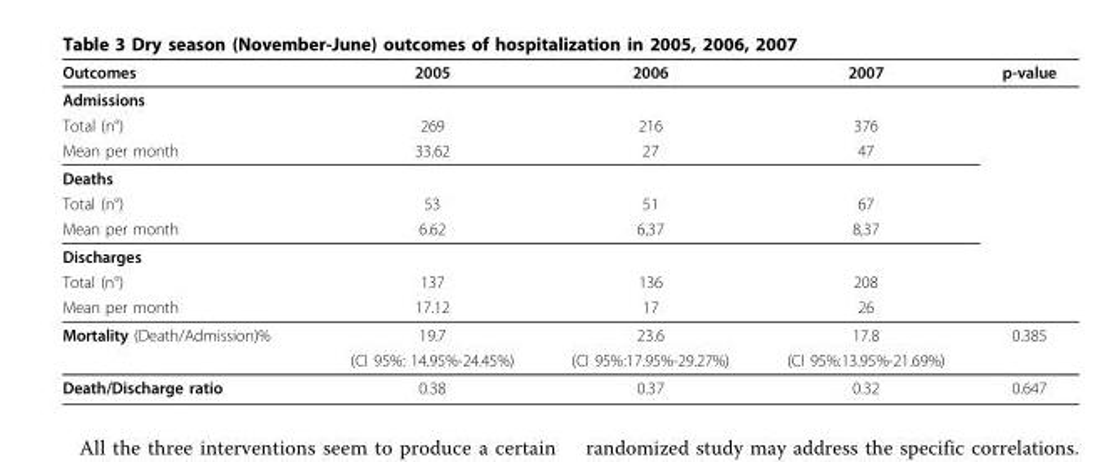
<table><thead><tr><td>Outcomes</td><td>2005</td><td>2006</td><td>2007</td><td>p-value</td></tr></thead><tbody><tr><td colspan="5">Admissions</td></tr><tr><td>Total (n°)</td><td>269</td><td>216</td><td>376</td><td></td></tr><tr><td>Mean per month</td><td>33.62</td><td>27</td><td>47</td><td></td></tr><tr><td colspan="5">Deaths</td></tr><tr><td>Total (n°)</td><td>53</td><td>51</td><td>67</td><td></td></tr><tr><td>Mean per month</td><td>6.62</td><td>6,37</td><td>8,37</td><td></td></tr><tr><td colspan="5">Discharges</td></tr><tr><td>Total (n°)</td><td>137</td><td>136</td><td>208</td><td></td></tr><tr><td>Mean per month</td><td>17.12</td><td>17</td><td>26</td><td></td></tr><tr><td rowspan="2">Mortality (Death/Admission)%</td><td>19.7</td><td>23.6</td><td>17.8</td><td>0.385</td></tr><tr><td>(CI 95%: 14.95%-24.45%)</td><td>(CI 95%:17.95%-29.27%)</td><td>(CI 95%:13.95%-21.69%)</td><td></td></tr><tr><td>Death/Discharge ratio</td><td>0.38</td><td>0.37</td><td>0.32</td><td>0.647</td></tr></tbody></table>